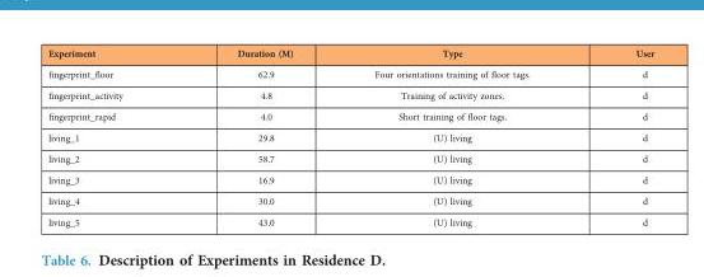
<table><thead><tr><td>Experiment</td><td>Duration (M)</td><td>Type</td><td>User</td></tr></thead><tbody><tr><td>fingerprint_floor</td><td>62.9</td><td>Four orientations training of floor tags.</td><td>d</td></tr><tr><td>fingerprint_activity</td><td>4.8</td><td>Training of activity zones.</td><td>d</td></tr><tr><td>fingerprint_rapid</td><td>4.0</td><td>Short training of floor tags.</td><td>d</td></tr><tr><td>living_1</td><td>29.8</td><td>(U) living</td><td>d</td></tr><tr><td>living_2</td><td>58.7</td><td>(U) living</td><td>d</td></tr><tr><td>living_3</td><td>16.9</td><td>(U) living</td><td>d</td></tr><tr><td>living_4</td><td>30.0</td><td>(U) living</td><td>d</td></tr><tr><td>living_5</td><td>43.0</td><td>(U) living</td><td>d</td></tr></tbody></table>